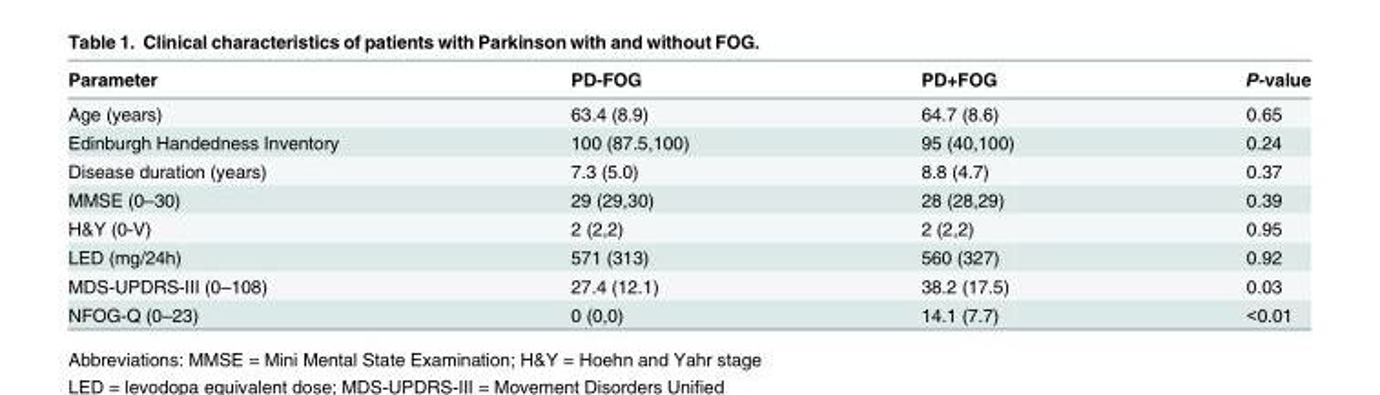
<table><thead><tr><td>Parameter</td><td>PD-FOG</td><td>PD+FOG</td><td>P-value</td></tr></thead><tbody><tr><td>Age (years)</td><td>63.4 (8.9)</td><td>64.7 (8.6)</td><td>0.65</td></tr><tr><td>Edinburgh Handedness Inventory</td><td>100 (87.5,100)</td><td>95 (40,100)</td><td>0.24</td></tr><tr><td>Disease duration (years)</td><td>7.3 (5.0)</td><td>8.8 (4.7)</td><td>0.37</td></tr><tr><td>MMSE (0–30)</td><td>29 (29,30)</td><td>28 (28,29)</td><td>0.39</td></tr><tr><td>H&amp;Y (0-V)</td><td>2 (2,2)</td><td>2 (2,2)</td><td>0.95</td></tr><tr><td>LED (mg/24h)</td><td>571 (313)</td><td>560 (327)</td><td>0.92</td></tr><tr><td>MDS-UPDRS-III (0–108)</td><td>27.4 (12.1)</td><td>38.2 (17.5)</td><td>0.03</td></tr><tr><td>NFOG-Q (0–23)</td><td>0 (0,0)</td><td>14.1 (7.7)</td><td>&lt;0.01</td></tr></tbody></table>